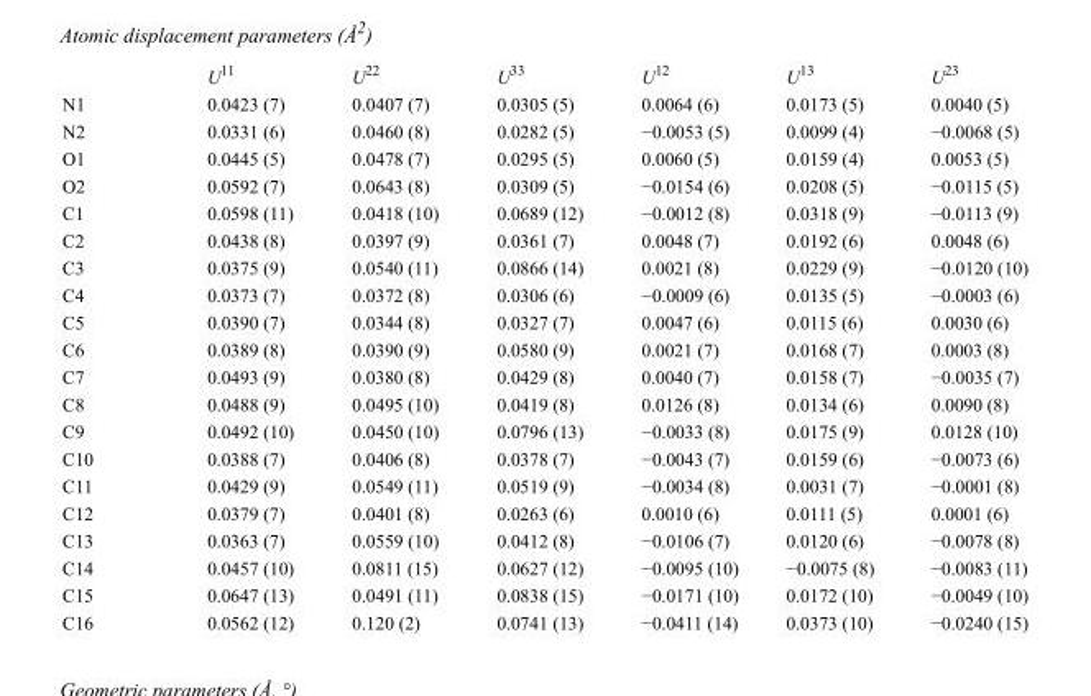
<table><thead><tr><td></td><td>U<sup>11</sup></td><td>U<sup>22</sup></td><td>U<sup>33</sup></td><td>U<sup>12</sup></td><td>U<sup>13</sup></td><td>U<sup>23</sup></td></tr></thead><tbody><tr><td>N1</td><td>0.0423 (7)</td><td>0.0407 (7)</td><td>0.0305 (5)</td><td>0.0064 (6)</td><td>0.0173 (5)</td><td>0.0040 (5)</td></tr><tr><td>N2</td><td>0.0331 (6)</td><td>0.0460 (8)</td><td>0.0282 (5)</td><td>−0.0053 (5)</td><td>0.0099 (4)</td><td>−0.0068 (5)</td></tr><tr><td>O1</td><td>0.0445 (5)</td><td>0.0478 (7)</td><td>0.0295 (5)</td><td>0.0060 (5)</td><td>0.0159 (4)</td><td>0.0053 (5)</td></tr><tr><td>O2</td><td>0.0592 (7)</td><td>0.0643 (8)</td><td>0.0309 (5)</td><td>−0.0154 (6)</td><td>0.0208 (5)</td><td>−0.0115 (5)</td></tr><tr><td>C1</td><td>0.0598 (11)</td><td>0.0418 (10)</td><td>0.0689 (12)</td><td>−0.0012 (8)</td><td>0.0318 (9)</td><td>−0.0113 (9)</td></tr><tr><td>C2</td><td>0.0438 (8)</td><td>0.0397 (9)</td><td>0.0361 (7)</td><td>0.0048 (7)</td><td>0.0192 (6)</td><td>0.0048 (6)</td></tr><tr><td>C3</td><td>0.0375 (9)</td><td>0.0540 (11)</td><td>0.0866 (14)</td><td>0.0021 (8)</td><td>0.0229 (9)</td><td>−0.0120 (10)</td></tr><tr><td>C4</td><td>0.0373 (7)</td><td>0.0372 (8)</td><td>0.0306 (6)</td><td>−0.0009 (6)</td><td>0.0135 (5)</td><td>−0.0003 (6)</td></tr><tr><td>C5</td><td>0.0390 (7)</td><td>0.0344 (8)</td><td>0.0327 (7)</td><td>0.0047 (6)</td><td>0.0115 (6)</td><td>0.0030 (6)</td></tr><tr><td>C6</td><td>0.0389 (8)</td><td>0.0390 (9)</td><td>0.0580 (9)</td><td>0.0021 (7)</td><td>0.0168 (7)</td><td>0.0003 (8)</td></tr><tr><td>C7</td><td>0.0493 (9)</td><td>0.0380 (8)</td><td>0.0429 (8)</td><td>0.0040 (7)</td><td>0.0158 (7)</td><td>−0.0035 (7)</td></tr><tr><td>C8</td><td>0.0488 (9)</td><td>0.0495 (10)</td><td>0.0419 (8)</td><td>0.0126 (8)</td><td>0.0134 (6)</td><td>0.0090 (8)</td></tr><tr><td>C9</td><td>0.0492 (10)</td><td>0.0450 (10)</td><td>0.0796 (13)</td><td>−0.0033 (8)</td><td>0.0175 (9)</td><td>0.0128 (10)</td></tr><tr><td>C10</td><td>0.0388 (7)</td><td>0.0406 (8)</td><td>0.0378 (7)</td><td>−0.0043 (7)</td><td>0.0159 (6)</td><td>−0.0073 (6)</td></tr><tr><td>C11</td><td>0.0429 (9)</td><td>0.0549 (11)</td><td>0.0519 (9)</td><td>−0.0034 (8)</td><td>0.0031 (7)</td><td>−0.0001 (8)</td></tr><tr><td>C12</td><td>0.0379 (7)</td><td>0.0401 (8)</td><td>0.0263 (6)</td><td>0.0010 (6)</td><td>0.0111 (5)</td><td>0.0001 (6)</td></tr><tr><td>C13</td><td>0.0363 (7)</td><td>0.0559 (10)</td><td>0.0412 (8)</td><td>−0.0106 (7)</td><td>0.0120 (6)</td><td>−0.0078 (8)</td></tr><tr><td>C14</td><td>0.0457 (10)</td><td>0.0811 (15)</td><td>0.0627 (12)</td><td>−0.0095 (10)</td><td>−0.0075 (8)</td><td>−0.0083 (11)</td></tr><tr><td>C15</td><td>0.0647 (13)</td><td>0.0491 (11)</td><td>0.0838 (15)</td><td>−0.0171 (10)</td><td>0.0172 (10)</td><td>−0.0049 (10)</td></tr><tr><td>C16</td><td>0.0562 (12)</td><td>0.120 (2)</td><td>0.0741 (13)</td><td>−0.0411 (14)</td><td>0.0373 (10)</td><td>−0.0240 (15)</td></tr></tbody></table>